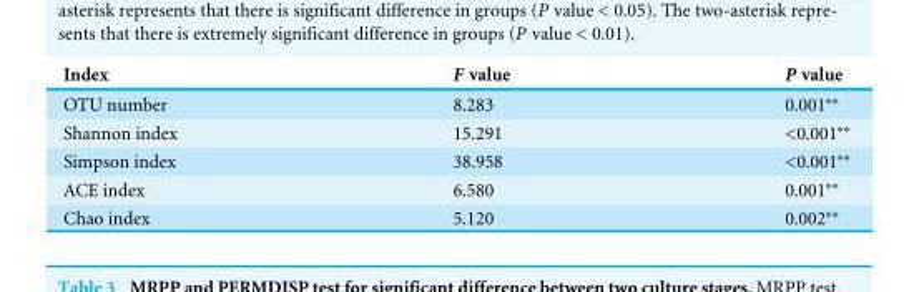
<table><thead><tr><td>Index</td><td>F value</td><td>P value</td></tr></thead><tbody><tr><td>OTU number</td><td>8.283</td><td>0.001∗∗</td></tr><tr><td>Shannon index</td><td>15.291</td><td>&lt;0.001∗∗</td></tr><tr><td>Simpson index</td><td>38.958</td><td>&lt;0.001∗∗</td></tr><tr><td>ACE index</td><td>6.580</td><td>0.001∗∗</td></tr><tr><td>Chao index</td><td>5.120</td><td>0.002∗∗</td></tr></tbody></table>